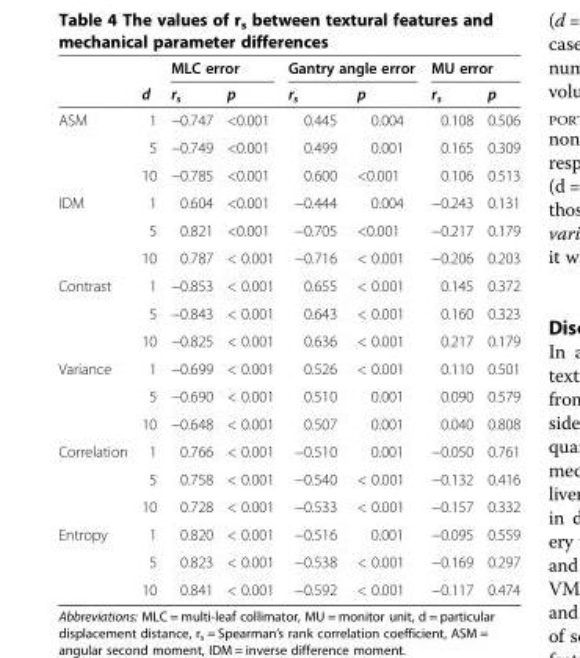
<table><thead><tr><td rowspan="2"></td><td rowspan="2">d</td><td colspan="2">MLC error</td><td colspan="2">Gantry angle error</td><td colspan="2">MU error</td></tr><tr><td>r<sub>s</sub></td><td>p</td><td>r<sub>s</sub></td><td>p</td><td>r<sub>s</sub></td><td>p</td></tr></thead><tbody><tr><td rowspan="3">ASM</td><td>1</td><td>−0.747</td><td>&lt;0.001</td><td>0.445</td><td>0.004</td><td>0.108</td><td>0.506</td></tr><tr><td>5</td><td>−0.749</td><td>&lt;0.001</td><td>0.499</td><td>0.001</td><td>0.165</td><td>0.309</td></tr><tr><td>10</td><td>−0.785</td><td>&lt;0.001</td><td>0.600</td><td>&lt;0.001</td><td>0.106</td><td>0.513</td></tr><tr><td rowspan="3">IDM</td><td>1</td><td>0.604</td><td>&lt;0.001</td><td>−0.444</td><td>0.004</td><td>−0.243</td><td>0.131</td></tr><tr><td>5</td><td>0.821</td><td>&lt;0.001</td><td>−0.705</td><td>&lt;0.001</td><td>−0.217</td><td>0.179</td></tr><tr><td>10</td><td>0.787</td><td>&lt; 0.001</td><td>−0.716</td><td>&lt; 0.001</td><td>−0.206</td><td>0.203</td></tr><tr><td rowspan="3">Contrast</td><td>1</td><td>−0.853</td><td>&lt; 0.001</td><td>0.655</td><td>&lt; 0.001</td><td>0.145</td><td>0.372</td></tr><tr><td>5</td><td>−0.843</td><td>&lt; 0.001</td><td>0.643</td><td>&lt; 0.001</td><td>0.160</td><td>0.323</td></tr><tr><td>10</td><td>−0.825</td><td>&lt; 0.001</td><td>0.636</td><td>&lt; 0.001</td><td>0.217</td><td>0.179</td></tr><tr><td rowspan="3">Variance</td><td>1</td><td>−0.699</td><td>&lt; 0.001</td><td>0.526</td><td>&lt; 0.001</td><td>0.110</td><td>0.501</td></tr><tr><td>5</td><td>−0.690</td><td>&lt; 0.001</td><td>0.510</td><td>0.001</td><td>0.090</td><td>0.579</td></tr><tr><td>10</td><td>−0.648</td><td>&lt; 0.001</td><td>0.507</td><td>0.001</td><td>0.040</td><td>0.808</td></tr><tr><td rowspan="3">Correlation</td><td>1</td><td>0.766</td><td>&lt; 0.001</td><td>−0.510</td><td>0.001</td><td>−0.050</td><td>0.761</td></tr><tr><td>5</td><td>0.758</td><td>&lt; 0.001</td><td>−0.540</td><td>&lt; 0.001</td><td>−0.132</td><td>0.416</td></tr><tr><td>10</td><td>0.728</td><td>&lt; 0.001</td><td>−0.533</td><td>&lt; 0.001</td><td>−0.157</td><td>0.332</td></tr><tr><td rowspan="3">Entropy</td><td>1</td><td>0.820</td><td>&lt; 0.001</td><td>−0.516</td><td>0.001</td><td>−0.095</td><td>0.559</td></tr><tr><td>5</td><td>0.823</td><td>&lt; 0.001</td><td>−0.538</td><td>&lt; 0.001</td><td>−0.169</td><td>0.297</td></tr><tr><td>10</td><td>0.841</td><td>&lt; 0.001</td><td>−0.592</td><td>&lt; 0.001</td><td>−0.117</td><td>0.474</td></tr></tbody></table>